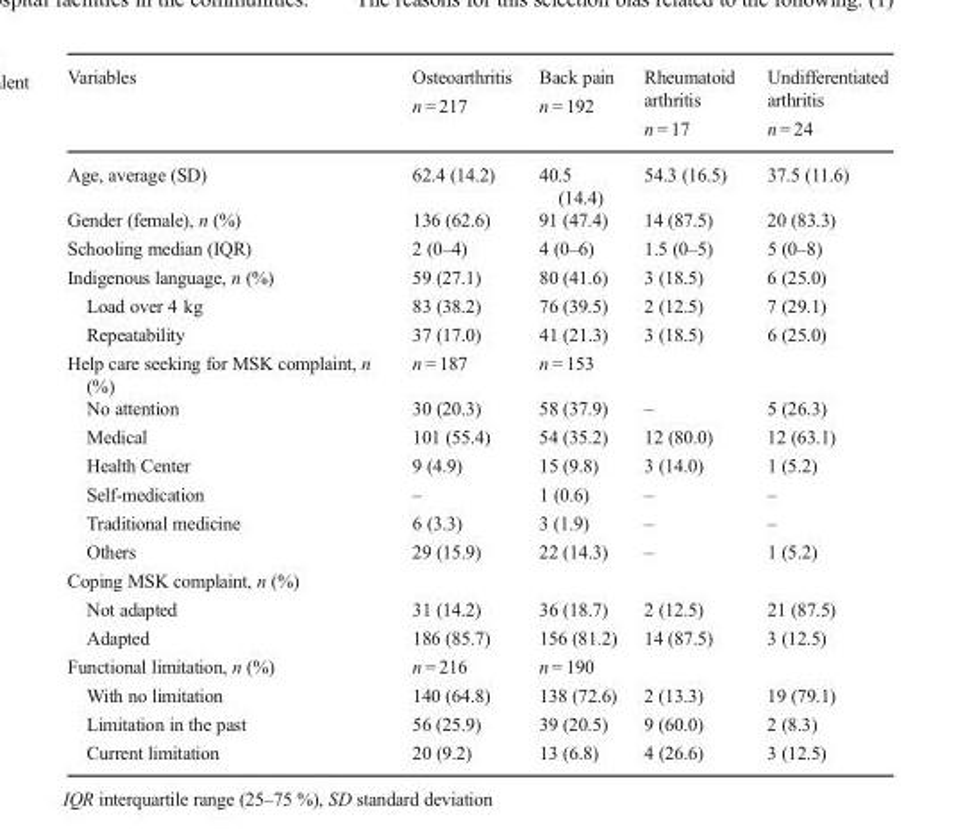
<table><thead><tr><td>Variables</td><td>Osteoarthritis n = 217</td><td>Back pain n = 192</td><td>Rheumatoid arthritis n = 17</td><td>Undifferentiated arthritis n = 24</td></tr></thead><tbody><tr><td>Age, average (SD)</td><td>62.4 (14.2)</td><td>40.5 (14.4)</td><td>54.3 (16.5)</td><td>37.5 (11.6)</td></tr><tr><td>Gender (female), n (%)</td><td>136 (62.6)</td><td>91 (47.4)</td><td>14 (87.5)</td><td>20 (83.3)</td></tr><tr><td>Schooling median (IQR)</td><td>2 (0–4)</td><td>4 (0–6)</td><td>1.5 (0–5)</td><td>5 (0–8)</td></tr><tr><td>Indigenous language, n (%)</td><td>59 (27.1)</td><td>80 (41.6)</td><td>3 (18.5)</td><td>6 (25.0)</td></tr><tr><td>Load over 4 kg</td><td>83 (38.2)</td><td>76 (39.5)</td><td>2 (12.5)</td><td>7 (29.1)</td></tr><tr><td>Repeatability</td><td>37 (17.0)</td><td>41 (21.3)</td><td>3 (18.5)</td><td>6 (25.0)</td></tr><tr><td>Help care seeking for MSK complaint, n (%)</td><td>n = 187</td><td>n = 153</td><td></td><td></td></tr><tr><td>No attention</td><td>30 (20.3)</td><td>58 (37.9)</td><td>–</td><td>5 (26.3)</td></tr><tr><td>Medical</td><td>101 (55.4)</td><td>54 (35.2)</td><td>12 (80.0)</td><td>12 (63.1)</td></tr><tr><td>Health Center</td><td>9 (4.9)</td><td>15 (9.8)</td><td>3 (14.0)</td><td>1 (5.2)</td></tr><tr><td>Self-medication</td><td>–</td><td>1 (0.6)</td><td>–</td><td>–</td></tr><tr><td>Traditional medicine</td><td>6 (3.3)</td><td>3 (1.9)</td><td>–</td><td>–</td></tr><tr><td>Others</td><td>29 (15.9)</td><td>22 (14.3)</td><td>–</td><td>1 (5.2)</td></tr><tr><td colspan="5">Coping MSK complaint, n (%)</td></tr><tr><td>Not adapted</td><td>31 (14.2)</td><td>36 (18.7)</td><td>2 (12.5)</td><td>21 (87.5)</td></tr><tr><td>Adapted</td><td>186 (85.7)</td><td>156 (81.2)</td><td>14 (87.5)</td><td>3 (12.5)</td></tr><tr><td>Functional limitation, n (%)</td><td>n = 216</td><td>n = 190</td><td></td><td></td></tr><tr><td>With no limitation</td><td>140 (64.8)</td><td>138 (72.6)</td><td>2 (13.3)</td><td>19 (79.1)</td></tr><tr><td>Limitation in the past</td><td>56 (25.9)</td><td>39 (20.5)</td><td>9 (60.0)</td><td>2 (8.3)</td></tr><tr><td>Current limitation</td><td>20 (9.2)</td><td>13 (6.8)</td><td>4 (26.6)</td><td>3 (12.5)</td></tr></tbody></table>